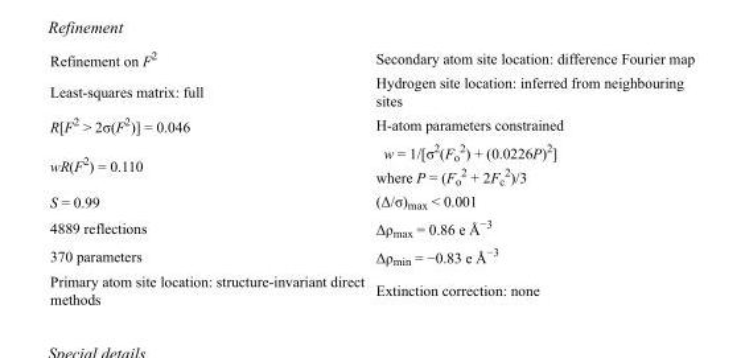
<table><tbody><tr><td>Refinement on F<sup>2</sup></td><td>Secondary atom site location: difference Fourier map</td></tr><tr><td>Least-squares matrix: full</td><td>Hydrogen site location: inferred from neighbouring sites</td></tr><tr><td>R[F<sup>2</sup> &gt; 2σ(F<sup>2</sup>)] = 0.046</td><td>H-atom parameters constrained</td></tr><tr><td>wR(F<sup>2</sup>) = 0.110</td><td>w = 1/[σ<sup>2</sup>(F<sub>o</sub> <sup>2</sup>) + (0.0226P)<sup>2</sup>] where P = (F<sub>o</sub> <sup>2</sup> + 2F<sub>c</sub> <sup>2</sup>)/3</td></tr><tr><td>S = 0.99</td><td>(Δ/σ)<sub>max</sub> &lt; 0.001</td></tr><tr><td>4889 reflections</td><td>Δρ<sub>max</sub> = 0.86 e Å<sup>−3</sup></td></tr><tr><td>370 parameters</td><td>Δρ<sub>min</sub> = −0.83 e Å<sup>−3</sup></td></tr><tr><td>Primary atom site location: structure-invariant direct methods</td><td>Extinction correction: none</td></tr></tbody></table>